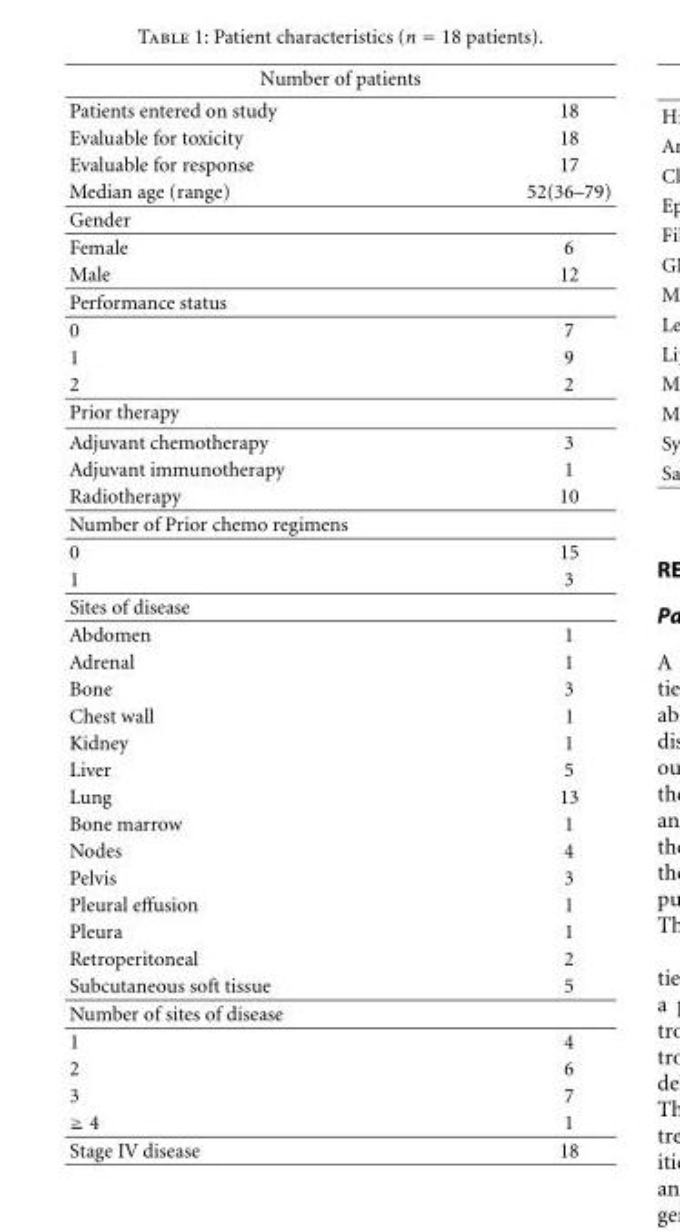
<table><tbody><tr><td colspan="2">Number of patients</td></tr><tr><td>Patients entered on study</td><td>18</td></tr><tr><td>Evaluable for toxicity</td><td>18</td></tr><tr><td>Evaluable for response</td><td>17</td></tr><tr><td>Median age (range)</td><td>52(36–79)</td></tr><tr><td colspan="2">Gender</td></tr><tr><td>Female</td><td>6</td></tr><tr><td>Male</td><td>12</td></tr><tr><td colspan="2">Performance status</td></tr><tr><td>0</td><td>7</td></tr><tr><td>1</td><td>9</td></tr><tr><td>2</td><td>2</td></tr><tr><td colspan="2">Prior therapy</td></tr><tr><td>Adjuvant chemotherapy</td><td>3</td></tr><tr><td>Adjuvant immunotherapy</td><td>1</td></tr><tr><td>Radiotherapy</td><td>10</td></tr><tr><td colspan="2">Number of Prior chemo regimens</td></tr><tr><td>0</td><td>15</td></tr><tr><td>1</td><td>3</td></tr><tr><td colspan="2">Sites of disease</td></tr><tr><td>Abdomen</td><td>1</td></tr><tr><td>Adrenal</td><td>1</td></tr><tr><td>Bone</td><td>3</td></tr><tr><td>Chest wall</td><td>1</td></tr><tr><td>Kidney</td><td>1</td></tr><tr><td>Liver</td><td>5</td></tr><tr><td>Lung</td><td>13</td></tr><tr><td>Bone marrow</td><td>1</td></tr><tr><td>Nodes</td><td>4</td></tr><tr><td>Pelvis</td><td>3</td></tr><tr><td>Pleural effusion</td><td>1</td></tr><tr><td>Pleura</td><td>1</td></tr><tr><td>Retroperitoneal</td><td>2</td></tr><tr><td>Subcutaneous soft tissue</td><td>5</td></tr><tr><td colspan="2">Number of sites of disease</td></tr><tr><td>1</td><td>4</td></tr><tr><td>2</td><td>6</td></tr><tr><td>3</td><td>7</td></tr><tr><td>≥ 4</td><td>1</td></tr><tr><td>Stage IV disease</td><td>18</td></tr></tbody></table>